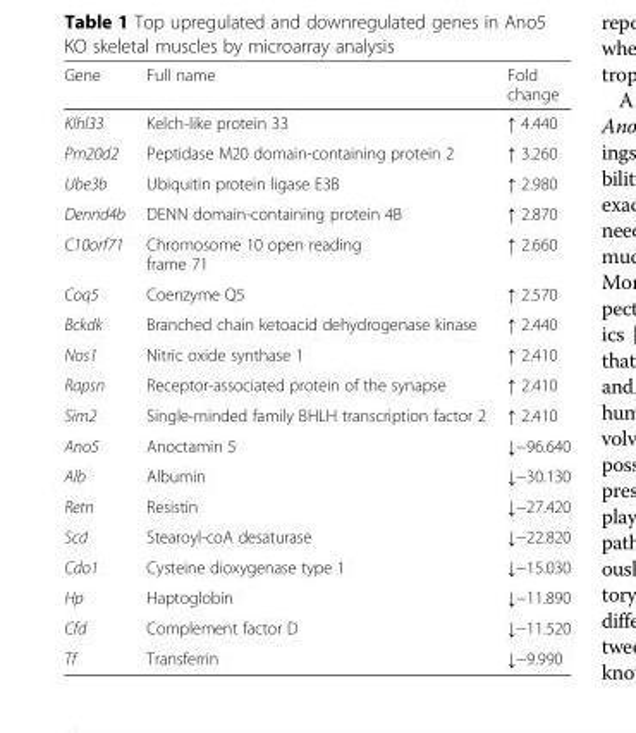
<table><thead><tr><td>Gene</td><td>Full name</td><td>Fold change</td></tr></thead><tbody><tr><td>Klhl33</td><td>Kelch-like protein 33</td><td>↑ 4.440</td></tr><tr><td>Pm20d2</td><td>Peptidase M20 domain-containing protein 2</td><td>↑ 3.260</td></tr><tr><td>Ube3b</td><td>Ubiquitin protein ligase E3B</td><td>↑ 2.980</td></tr><tr><td>Dennd4b</td><td>DENN domain-containing protein 4B</td><td>↑ 2.870</td></tr><tr><td>C10orf71</td><td>Chromosome 10 open reading frame 71</td><td>↑ 2.660</td></tr><tr><td>Coq5</td><td>Coenzyme Q5</td><td>↑ 2.570</td></tr><tr><td>Bckdk</td><td>Branched chain ketoacid dehydrogenase kinase</td><td>↑ 2.440</td></tr><tr><td>Nos1</td><td>Nitric oxide synthase 1</td><td>↑ 2.410</td></tr><tr><td>Rapsn</td><td>Receptor-associated protein of the synapse</td><td>↑ 2.410</td></tr><tr><td>Sim2</td><td>Single-minded family BHLH transcription factor 2</td><td>↑ 2.410</td></tr><tr><td>Ano5</td><td>Anoctamin 5</td><td>↓−96.640</td></tr><tr><td>Alb</td><td>Albumin</td><td>↓−30.130</td></tr><tr><td>Retn</td><td>Resistin</td><td>↓−27.420</td></tr><tr><td>Scd</td><td>Stearoyl-coA desaturase</td><td>↓−22.820</td></tr><tr><td>Cdo1</td><td>Cysteine dioxygenase type 1</td><td>↓−15.030</td></tr><tr><td>Hp</td><td>Haptoglobin</td><td>↓−11.890</td></tr><tr><td>Cfd</td><td>Complement factor D</td><td>↓−11.520</td></tr><tr><td>Tf</td><td>Transferrin</td><td>↓−9.990</td></tr></tbody></table>